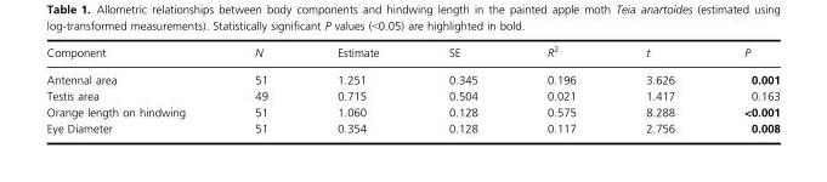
<table><thead><tr><td>Component</td><td>N</td><td>Estimate</td><td>SE</td><td>R<sup>2</sup></td><td>t</td><td>P</td></tr></thead><tbody><tr><td>Antennal area</td><td>51</td><td>1.251</td><td>0.345</td><td>0.196</td><td>3.626</td><td>0.001</td></tr><tr><td>Testis area</td><td>49</td><td>0.715</td><td>0.504</td><td>0.021</td><td>1.417</td><td>0.163</td></tr><tr><td>Orange length on hindwing</td><td>51</td><td>1.060</td><td>0.128</td><td>0.575</td><td>8.288</td><td>&lt;0.001</td></tr><tr><td>Eye Diameter</td><td>51</td><td>0.354</td><td>0.128</td><td>0.117</td><td>2.756</td><td>0.008</td></tr></tbody></table>